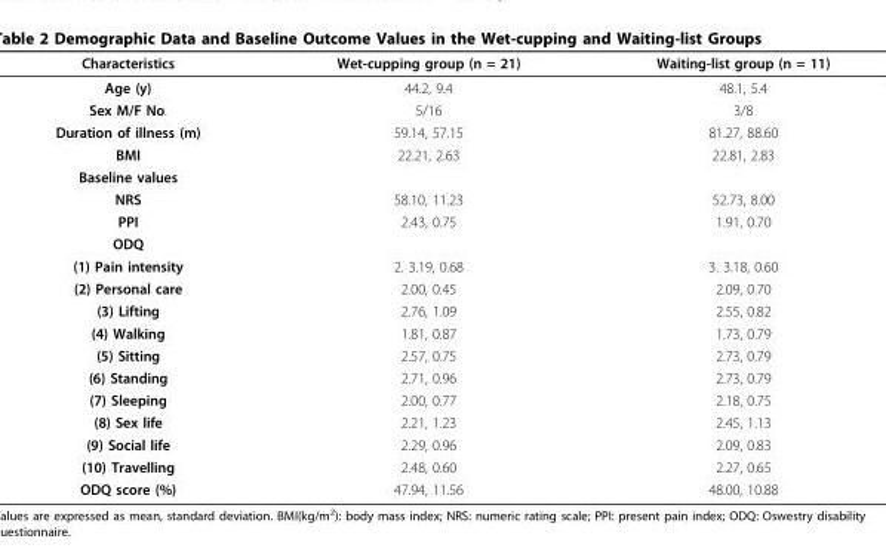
<table><thead><tr><td>Characteristics</td><td>Wet-cupping group (n = 21)</td><td>Waiting-list group (n = 11)</td></tr></thead><tbody><tr><td>Age (y)</td><td>44.2, 9.4</td><td>48.1, 5.4</td></tr><tr><td>Sex M/F No.</td><td>5/16</td><td>3/8</td></tr><tr><td>Duration of illness (m)</td><td>59.14, 57.15</td><td>81.27, 88.60</td></tr><tr><td>BMI</td><td>22.21, 2.63</td><td>22.81, 2.83</td></tr><tr><td colspan="3">Baseline values</td></tr><tr><td>NRS</td><td>58.10, 11.23</td><td>52.73, 8.00</td></tr><tr><td>PPI</td><td>2.43, 0.75</td><td>1.91, 0.70</td></tr><tr><td colspan="3">ODQ</td></tr><tr><td>(1) Pain intensity</td><td>2. 3.19, 0.68</td><td>3. 3.18, 0.60</td></tr><tr><td>(2) Personal care</td><td>2.00, 0.45</td><td>2.09, 0.70</td></tr><tr><td>(3) Lifting</td><td>2.76, 1.09</td><td>2.55, 0.82</td></tr><tr><td>(4) Walking</td><td>1.81, 0.87</td><td>1.73, 0.79</td></tr><tr><td>(5) Sitting</td><td>2.57, 0.75</td><td>2.73, 0.79</td></tr><tr><td>(6) Standing</td><td>2.71, 0.96</td><td>2.73, 0.79</td></tr><tr><td>(7) Sleeping</td><td>2.00, 0.77</td><td>2.18, 0.75</td></tr><tr><td>(8) Sex life</td><td>2.21, 1.23</td><td>2.45, 1.13</td></tr><tr><td>(9) Social life</td><td>2.29, 0.96</td><td>2.09, 0.83</td></tr><tr><td>(10) Travelling</td><td>2.48, 0.60</td><td>2.27, 0.65</td></tr><tr><td>ODQ score (%)</td><td>47.94, 11.56</td><td>48.00, 10.88</td></tr></tbody></table>